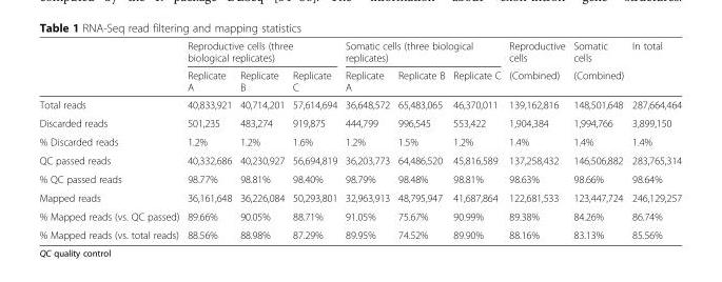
<table><thead><tr><td rowspan="2"></td><td colspan="3">Reproductive cells (three biological replicates)</td><td colspan="3">Somatic cells (three biological replicates)</td><td rowspan="2">Reproductive cells (Combined)</td><td rowspan="2">Somatic cells (Combined)</td><td rowspan="2">In total</td></tr><tr><td>Replicate A</td><td>Replicate B</td><td>Replicate C</td><td>Replicate A</td><td>Replicate B</td><td>Replicate C</td></tr></thead><tbody><tr><td>Total reads</td><td>40,833,921</td><td>40,714,201</td><td>57,614,694</td><td>36,648,572</td><td>65,483,065</td><td>46,370,011</td><td>139,162,816</td><td>148,501,648</td><td>287,664,464</td></tr><tr><td>Discarded reads</td><td>501,235</td><td>483,274</td><td>919,875</td><td>444,799</td><td>996,545</td><td>553,422</td><td>1,904,384</td><td>1,994,766</td><td>3,899,150</td></tr><tr><td>% Discarded reads</td><td>1.2%</td><td>1.2%</td><td>1.6%</td><td>1.2%</td><td>1.5%</td><td>1.2%</td><td>1.4%</td><td>1.4%</td><td>1.4%</td></tr><tr><td>QC passed reads</td><td>40,332,686</td><td>40,230,927</td><td>56,694,819</td><td>36,203,773</td><td>64,486,520</td><td>45,816,589</td><td>137,258,432</td><td>146,506,882</td><td>283,765,314</td></tr><tr><td>% QC passed reads</td><td>98.77%</td><td>98.81%</td><td>98.40%</td><td>98.79%</td><td>98.48%</td><td>98.81%</td><td>98.63%</td><td>98.66%</td><td>98.64%</td></tr><tr><td>Mapped reads</td><td>36,161,648</td><td>36,226,084</td><td>50,293,801</td><td>32,963,913</td><td>48,795,947</td><td>41,687,864</td><td>122,681,533</td><td>123,447,724</td><td>246,129,257</td></tr><tr><td>% Mapped reads (vs. QC passed)</td><td>89.66%</td><td>90.05%</td><td>88.71%</td><td>91.05%</td><td>75.67%</td><td>90.99%</td><td>89.38%</td><td>84.26%</td><td>86.74%</td></tr><tr><td>% Mapped reads (vs. total reads)</td><td>88.56%</td><td>88.98%</td><td>87.29%</td><td>89.95%</td><td>74.52%</td><td>89.90%</td><td>88.16%</td><td>83.13%</td><td>85.56%</td></tr></tbody></table>